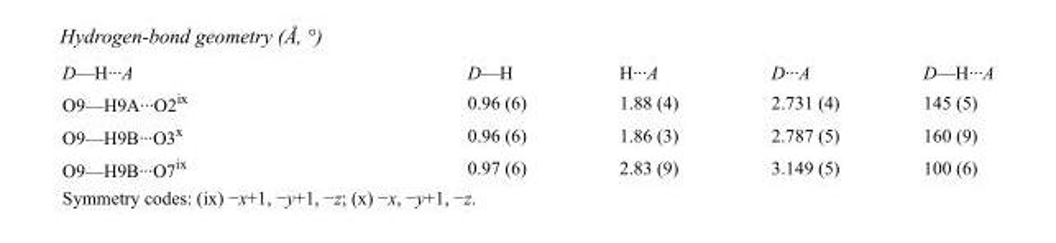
<table><tbody><tr><td>D—H···A</td><td>D—H</td><td>H···A</td><td>D···A</td><td>D—H···A</td></tr><tr><td>O9—H9A···O2<sup>ix</sup></td><td>0.96 (6)</td><td>1.88 (4)</td><td>2.731 (4)</td><td>145 (5)</td></tr><tr><td>O9—H9B···O3<sup>x</sup></td><td>0.96 (6)</td><td>1.86 (3)</td><td>2.787 (5)</td><td>160 (9)</td></tr><tr><td>O9—H9B···O7<sup>ix</sup></td><td>0.97 (6)</td><td>2.83 (9)</td><td>3.149 (5)</td><td>100 (6)</td></tr></tbody></table>